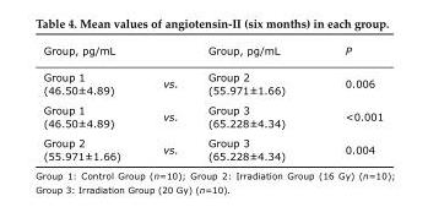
<table><thead><tr><td>Group, pg/mL</td><td></td><td>Group, pg/mL</td><td>P</td></tr></thead><tbody><tr><td>Group 1 (46.50±4.89)</td><td>vs.</td><td>Group 2 (55.971±1.66)</td><td>0.006</td></tr><tr><td>Group 1 (46.50±4.89)</td><td>vs.</td><td>Group 3 (65.228±4.34)</td><td>&lt;0.001</td></tr><tr><td>Group 2 (55.971±1.66)</td><td>vs.</td><td>Group 3 (65.228±4.34)</td><td>0.004</td></tr></tbody></table>